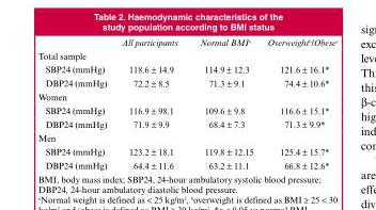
<table><thead><tr><td></td><td>All participants</td><td>Normal BMIa</td><td>Overweightb/Obesec</td></tr></thead><tbody><tr><td colspan="4">Total sample</td></tr><tr><td>SBP24 (mmHg)</td><td>118.6 ± 14.9</td><td>114.9 ± 12.3</td><td>121.6 ± 16.1*</td></tr><tr><td>DBP24 (mmHg)</td><td>72.2 ± 8.5</td><td>71.3 ± 9.1</td><td>74.4 ± 10.6*</td></tr><tr><td colspan="4">Women</td></tr><tr><td>SBP24 (mmHg)</td><td>116.9 ± 98.1</td><td>109.6 ± 9.8</td><td>116.6 ± 15.1*</td></tr><tr><td>DBP24 (mmHg)</td><td>71.9 ± 9.9</td><td>68.4 ± 7.3</td><td>71.3 ± 9.9*</td></tr><tr><td colspan="4">Men</td></tr><tr><td>SBP24 (mmHg)</td><td>123.2 ± 18.1</td><td>119.8 ± 12.15</td><td>125.4 ± 15.7*</td></tr><tr><td>DBP24 (mmHg)</td><td>64.4 ± 11.6</td><td>63.2 ± 11.1</td><td>66.8 ± 12.6*</td></tr></tbody></table>